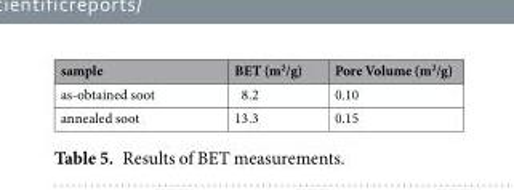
<table><thead><tr><td>sample</td><td>BET (m<sup>2</sup>/g)</td><td>Pore Volume (m<sup>2</sup>/g)</td></tr></thead><tbody><tr><td>as-obtained soot</td><td>8.2</td><td>0.10</td></tr><tr><td>annealed soot</td><td>13.3</td><td>0.15</td></tr></tbody></table>